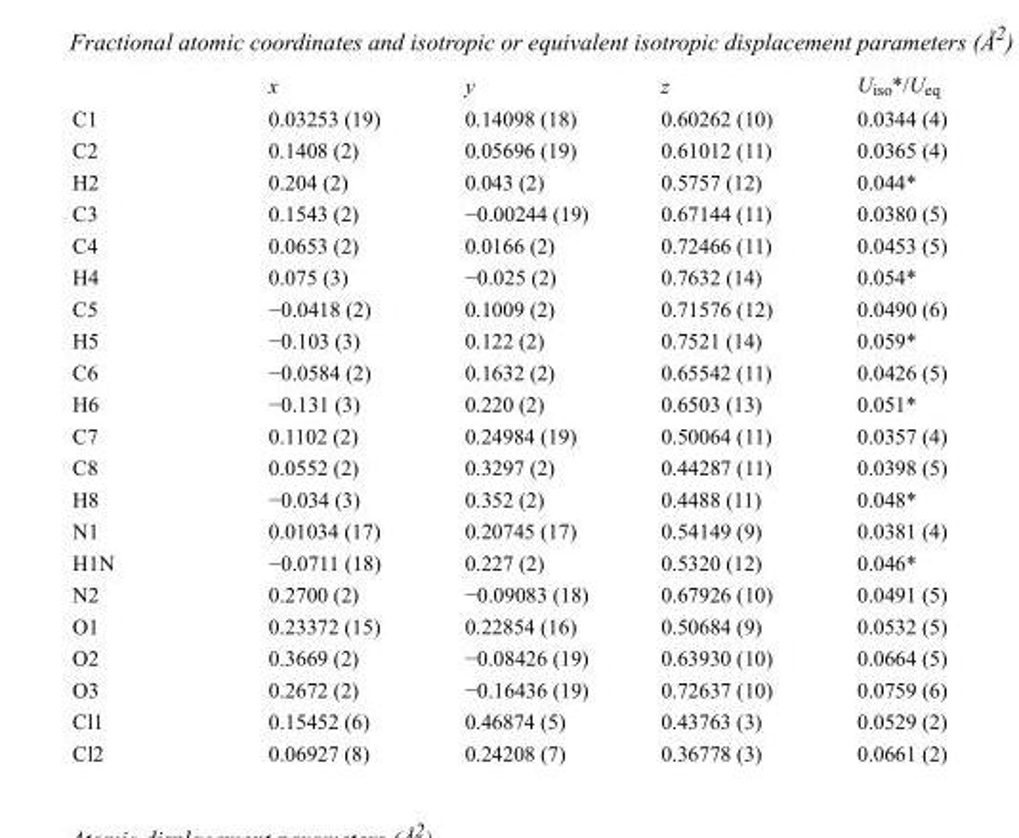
<table><thead><tr><td></td><td>x</td><td>y</td><td>z</td><td>U<sub>iso</sub>*/U<sub>eq</sub></td></tr></thead><tbody><tr><td>C1</td><td>0.03253 (19)</td><td>0.14098 (18)</td><td>0.60262 (10)</td><td>0.0344 (4)</td></tr><tr><td>C2</td><td>0.1408 (2)</td><td>0.05696 (19)</td><td>0.61012 (11)</td><td>0.0365 (4)</td></tr><tr><td>H2</td><td>0.204 (2)</td><td>0.043 (2)</td><td>0.5757 (12)</td><td>0.044*</td></tr><tr><td>C3</td><td>0.1543 (2)</td><td>−0.00244 (19)</td><td>0.67144 (11)</td><td>0.0380 (5)</td></tr><tr><td>C4</td><td>0.0653 (2)</td><td>0.0166 (2)</td><td>0.72466 (11)</td><td>0.0453 (5)</td></tr><tr><td>H4</td><td>0.075 (3)</td><td>−0.025 (2)</td><td>0.7632 (14)</td><td>0.054*</td></tr><tr><td>C5</td><td>−0.0418 (2)</td><td>0.1009 (2)</td><td>0.71576 (12)</td><td>0.0490 (6)</td></tr><tr><td>H5</td><td>−0.103 (3)</td><td>0.122 (2)</td><td>0.7521 (14)</td><td>0.059*</td></tr><tr><td>C6</td><td>−0.0584 (2)</td><td>0.1632 (2)</td><td>0.65542 (11)</td><td>0.0426 (5)</td></tr><tr><td>H6</td><td>−0.131 (3)</td><td>0.220 (2)</td><td>0.6503 (13)</td><td>0.051*</td></tr><tr><td>C7</td><td>0.1102 (2)</td><td>0.24984 (19)</td><td>0.50064 (11)</td><td>0.0357 (4)</td></tr><tr><td>C8</td><td>0.0552 (2)</td><td>0.3297 (2)</td><td>0.44287 (11)</td><td>0.0398 (5)</td></tr><tr><td>H8</td><td>−0.034 (3)</td><td>0.352 (2)</td><td>0.4488 (11)</td><td>0.048*</td></tr><tr><td>N1</td><td>0.01034 (17)</td><td>0.20745 (17)</td><td>0.54149 (9)</td><td>0.0381 (4)</td></tr><tr><td>H1N</td><td>−0.0711 (18)</td><td>0.227 (2)</td><td>0.5320 (12)</td><td>0.046*</td></tr><tr><td>N2</td><td>0.2700 (2)</td><td>−0.09083 (18)</td><td>0.67926 (10)</td><td>0.0491 (5)</td></tr><tr><td>O1</td><td>0.23372 (15)</td><td>0.22854 (16)</td><td>0.50684 (9)</td><td>0.0532 (5)</td></tr><tr><td>O2</td><td>0.3669 (2)</td><td>−0.08426 (19)</td><td>0.63930 (10)</td><td>0.0664 (5)</td></tr><tr><td>O3</td><td>0.2672 (2)</td><td>−0.16436 (19)</td><td>0.72637 (10)</td><td>0.0759 (6)</td></tr><tr><td>Cl1</td><td>0.15452 (6)</td><td>0.46874 (5)</td><td>0.43763 (3)</td><td>0.0529 (2)</td></tr><tr><td>Cl2</td><td>0.06927 (8)</td><td>0.24208 (7)</td><td>0.36778 (3)</td><td>0.0661 (2)</td></tr></tbody></table>